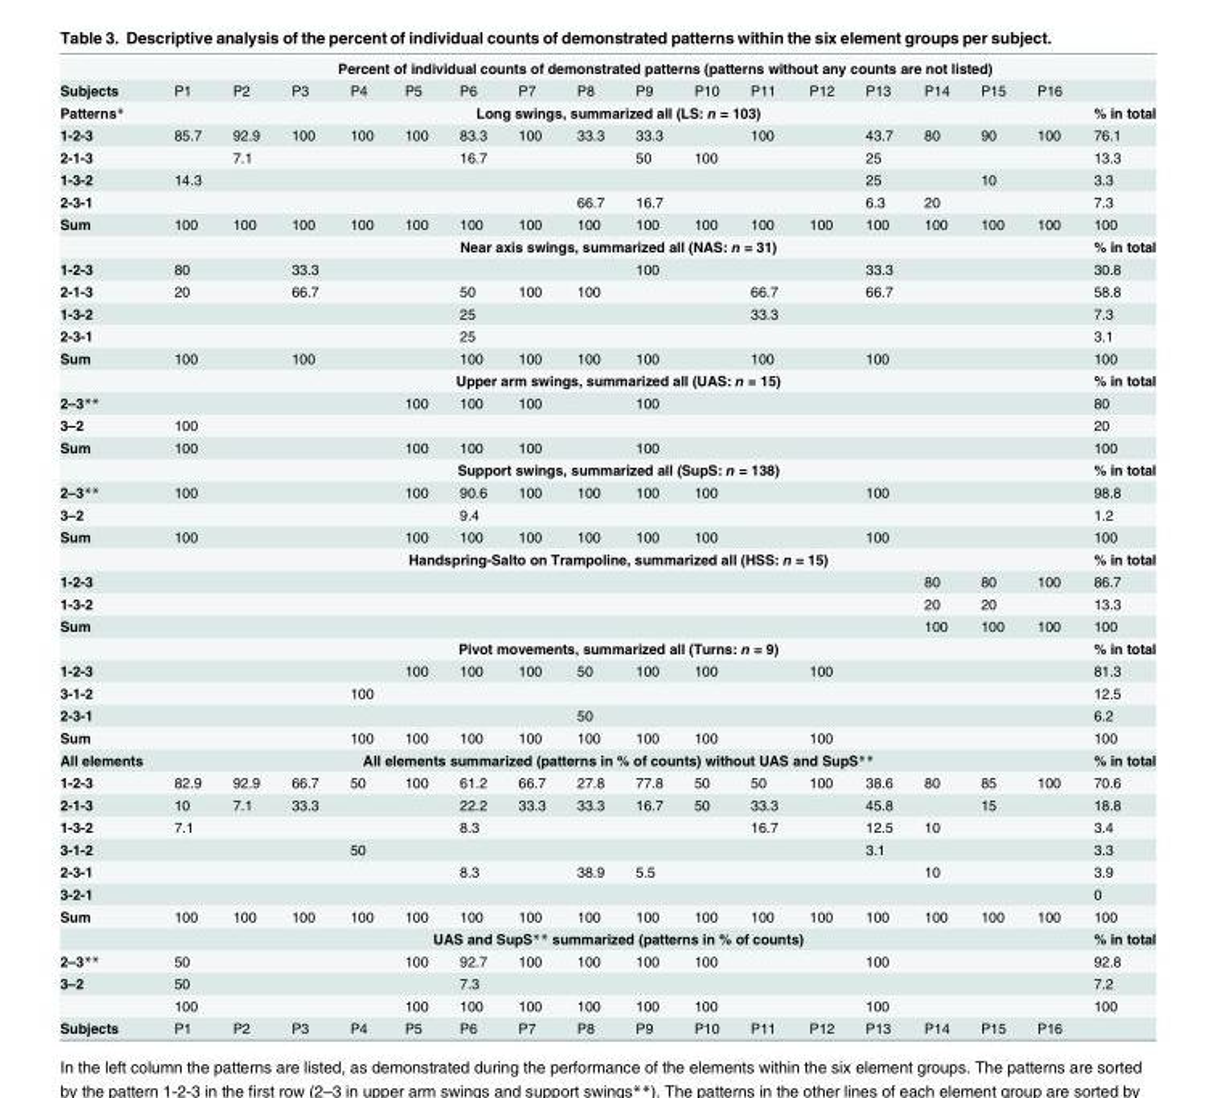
<table><thead><tr><td rowspan="2">Subjects</td><td colspan="17">Percent of individual counts of demonstrated patterns (patterns without any counts are not listed)</td></tr><tr><td>P1</td><td>P2</td><td>P3</td><td>P4</td><td>P5</td><td>P6</td><td>P7</td><td>P8</td><td>P9</td><td>P10</td><td>P11</td><td>P12</td><td>P13</td><td>P14</td><td>P15</td><td>P16</td><td></td></tr></thead><tbody><tr><td>Patterns*</td><td colspan="16">Long swings, summarized all (LS: n = 103)</td><td>% in total</td></tr><tr><td>1-2-3</td><td>85.7</td><td>92.9</td><td>100</td><td>100</td><td>100</td><td>83.3</td><td>100</td><td>33.3</td><td>33.3</td><td></td><td>100</td><td></td><td>43.7</td><td>80</td><td>90</td><td>100</td><td>76.1</td></tr><tr><td>2-1-3</td><td></td><td>7.1</td><td></td><td></td><td></td><td>16.7</td><td></td><td></td><td>50</td><td>100</td><td></td><td></td><td>25</td><td></td><td></td><td></td><td>13.3</td></tr><tr><td>1-3-2</td><td>14.3</td><td></td><td></td><td></td><td></td><td></td><td></td><td></td><td></td><td></td><td></td><td></td><td>25</td><td></td><td>10</td><td></td><td>3.3</td></tr><tr><td>2-3-1</td><td></td><td></td><td></td><td></td><td></td><td></td><td></td><td>66.7</td><td>16.7</td><td></td><td></td><td></td><td>6.3</td><td>20</td><td></td><td></td><td>7.3</td></tr><tr><td rowspan="2">Sum</td><td>100</td><td>100</td><td>100</td><td>100</td><td>100</td><td>100</td><td>100</td><td>100</td><td>100</td><td>100</td><td>100</td><td>100</td><td>100</td><td>100</td><td>100</td><td>100</td><td>100</td></tr><tr><td colspan="16">Near axis swings, summarized all (NAS: n = 31)</td><td>% in total</td></tr><tr><td>1-2-3</td><td>80</td><td></td><td>33.3</td><td></td><td></td><td></td><td></td><td></td><td>100</td><td></td><td></td><td></td><td>33.3</td><td></td><td></td><td></td><td>30.8</td></tr><tr><td>2-1-3</td><td>20</td><td></td><td>66.7</td><td></td><td></td><td>50</td><td>100</td><td>100</td><td></td><td></td><td>66.7</td><td></td><td>66.7</td><td></td><td></td><td></td><td>58.8</td></tr><tr><td>1-3-2</td><td></td><td></td><td></td><td></td><td></td><td>25</td><td></td><td></td><td></td><td></td><td>33.3</td><td></td><td></td><td></td><td></td><td></td><td>7.3</td></tr><tr><td>2-3-1</td><td></td><td></td><td></td><td></td><td></td><td>25</td><td></td><td></td><td></td><td></td><td></td><td></td><td></td><td></td><td></td><td></td><td>3.1</td></tr><tr><td rowspan="2">Sum</td><td>100</td><td></td><td>100</td><td></td><td></td><td>100</td><td>100</td><td>100</td><td>100</td><td></td><td>100</td><td></td><td>100</td><td></td><td></td><td></td><td>100</td></tr><tr><td colspan="16">Upper arm swings, summarized all (UAS: n = 15)</td><td>% in total</td></tr><tr><td>2–3**</td><td></td><td></td><td></td><td></td><td>100</td><td>100</td><td>100</td><td></td><td>100</td><td></td><td></td><td></td><td></td><td></td><td></td><td></td><td>80</td></tr><tr><td>3–2</td><td>100</td><td></td><td></td><td></td><td></td><td></td><td></td><td></td><td></td><td></td><td></td><td></td><td></td><td></td><td></td><td></td><td>20</td></tr><tr><td rowspan="2">Sum</td><td>100</td><td></td><td></td><td></td><td>100</td><td>100</td><td>100</td><td></td><td>100</td><td></td><td></td><td></td><td></td><td></td><td></td><td></td><td>100</td></tr><tr><td colspan="16">Support swings, summarized all (SupS: n = 138)</td><td>% in total</td></tr><tr><td>2–3**</td><td>100</td><td></td><td></td><td></td><td>100</td><td>90.6</td><td>100</td><td>100</td><td>100</td><td>100</td><td></td><td></td><td>100</td><td></td><td></td><td></td><td>98.8</td></tr><tr><td>3–2</td><td></td><td></td><td></td><td></td><td></td><td>9.4</td><td></td><td></td><td></td><td></td><td></td><td></td><td></td><td></td><td></td><td></td><td>1.2</td></tr><tr><td rowspan="2">Sum</td><td>100</td><td></td><td></td><td></td><td>100</td><td>100</td><td>100</td><td>100</td><td>100</td><td>100</td><td></td><td></td><td>100</td><td></td><td></td><td></td><td>100</td></tr><tr><td colspan="16">Handspring-Salto on Trampoline, summarized all (HSS: n = 15)</td><td>% in total</td></tr><tr><td>1-2-3</td><td></td><td></td><td></td><td></td><td></td><td></td><td></td><td></td><td></td><td></td><td></td><td></td><td></td><td>80</td><td>80</td><td>100</td><td>86.7</td></tr><tr><td>1-3-2</td><td></td><td></td><td></td><td></td><td></td><td></td><td></td><td></td><td></td><td></td><td></td><td></td><td></td><td>20</td><td>20</td><td></td><td>13.3</td></tr><tr><td rowspan="2">Sum</td><td></td><td></td><td></td><td></td><td></td><td></td><td></td><td></td><td></td><td></td><td></td><td></td><td></td><td>100</td><td>100</td><td>100</td><td>100</td></tr><tr><td colspan="16">Pivot movements, summarized all (Turns: n = 9)</td><td>% in total</td></tr><tr><td>1-2-3</td><td></td><td></td><td></td><td></td><td>100</td><td>100</td><td>100</td><td>50</td><td>100</td><td>100</td><td></td><td>100</td><td></td><td></td><td></td><td></td><td>81.3</td></tr><tr><td>3-1-2</td><td></td><td></td><td></td><td>100</td><td></td><td></td><td></td><td></td><td></td><td></td><td></td><td></td><td></td><td></td><td></td><td></td><td>12.5</td></tr><tr><td>2-3-1</td><td></td><td></td><td></td><td></td><td></td><td></td><td></td><td>50</td><td></td><td></td><td></td><td></td><td></td><td></td><td></td><td></td><td>6.2</td></tr><tr><td>Sum</td><td></td><td></td><td></td><td>100</td><td>100</td><td>100</td><td>100</td><td>100</td><td>100</td><td>100</td><td></td><td>100</td><td></td><td></td><td></td><td></td><td>100</td></tr><tr><td>All elements</td><td colspan="16">All elements summarized (patterns in % of counts) without UAS and SupS**</td><td>% in total</td></tr><tr><td>1-2-3</td><td>82.9</td><td>92.9</td><td>66.7</td><td>50</td><td>100</td><td>61.2</td><td>66.7</td><td>27.8</td><td>77.8</td><td>50</td><td>50</td><td>100</td><td>38.6</td><td>80</td><td>85</td><td>100</td><td>70.6</td></tr><tr><td>2-1-3</td><td>10</td><td>7.1</td><td>33.3</td><td></td><td></td><td>22.2</td><td>33.3</td><td>33.3</td><td>16.7</td><td>50</td><td>33.3</td><td></td><td>45.8</td><td></td><td>15</td><td></td><td>18.8</td></tr><tr><td>1-3-2</td><td>7.1</td><td></td><td></td><td></td><td></td><td>8.3</td><td></td><td></td><td></td><td></td><td>16.7</td><td></td><td>12.5</td><td>10</td><td></td><td></td><td>3.4</td></tr><tr><td>3-1-2</td><td></td><td></td><td></td><td>50</td><td></td><td></td><td></td><td></td><td></td><td></td><td></td><td></td><td>3.1</td><td></td><td></td><td></td><td>3.3</td></tr><tr><td>2-3-1</td><td></td><td></td><td></td><td></td><td></td><td>8.3</td><td></td><td>38.9</td><td>5.5</td><td></td><td></td><td></td><td></td><td>10</td><td></td><td></td><td>3.9</td></tr><tr><td>3-2-1</td><td></td><td></td><td></td><td></td><td></td><td></td><td></td><td></td><td></td><td></td><td></td><td></td><td></td><td></td><td></td><td></td><td>0</td></tr><tr><td rowspan="2">Sum</td><td>100</td><td>100</td><td>100</td><td>100</td><td>100</td><td>100</td><td>100</td><td>100</td><td>100</td><td>100</td><td>100</td><td>100</td><td>100</td><td>100</td><td>100</td><td>100</td><td>100</td></tr><tr><td colspan="16">UAS and SupS** summarized (patterns in % of counts)</td><td>% in total</td></tr><tr><td>2–3**</td><td>50</td><td></td><td></td><td></td><td>100</td><td>92.7</td><td>100</td><td>100</td><td>100</td><td>100</td><td></td><td></td><td>100</td><td></td><td></td><td></td><td>92.8</td></tr><tr><td rowspan="2">3–2</td><td>50</td><td></td><td></td><td></td><td></td><td>7.3</td><td></td><td></td><td></td><td></td><td></td><td></td><td></td><td></td><td></td><td></td><td>7.2</td></tr><tr><td>100</td><td></td><td></td><td></td><td>100</td><td>100</td><td>100</td><td>100</td><td>100</td><td>100</td><td></td><td></td><td>100</td><td></td><td></td><td></td><td>100</td></tr><tr><td>Subjects</td><td>P1</td><td>P2</td><td>P3</td><td>P4</td><td>P5</td><td>P6</td><td>P7</td><td>P8</td><td>P9</td><td>P10</td><td>P11</td><td>P12</td><td>P13</td><td>P14</td><td>P15</td><td>P16</td><td></td></tr></tbody></table>